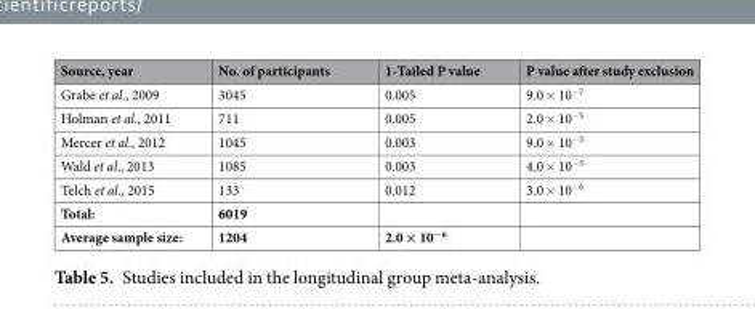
<table><thead><tr><td>Source, year</td><td>No. of participants</td><td>1-Tailed P value</td><td>P value after study exclusion</td></tr></thead><tbody><tr><td>Grabe et al., 2009</td><td>3045</td><td>0.005</td><td>9.0 × 10<sup>−7</sup></td></tr><tr><td>Holman et al., 2011</td><td>711</td><td>0.005</td><td>2.0 × 10<sup>−5</sup></td></tr><tr><td>Mercer et al., 2012</td><td>1045</td><td>0.003</td><td>9.0 × 10<sup>−5</sup></td></tr><tr><td>Wald et al., 2013</td><td>1085</td><td>0.003</td><td>4.0 × 10<sup>−5</sup></td></tr><tr><td>Telch et al., 2015</td><td>133</td><td>0.012</td><td>3.0 × 10<sup>−6</sup></td></tr><tr><td>Total:</td><td>6019</td><td></td><td></td></tr><tr><td>Average sample size:</td><td>1204</td><td>2.0 × 10<sup>−6</sup></td><td></td></tr></tbody></table>